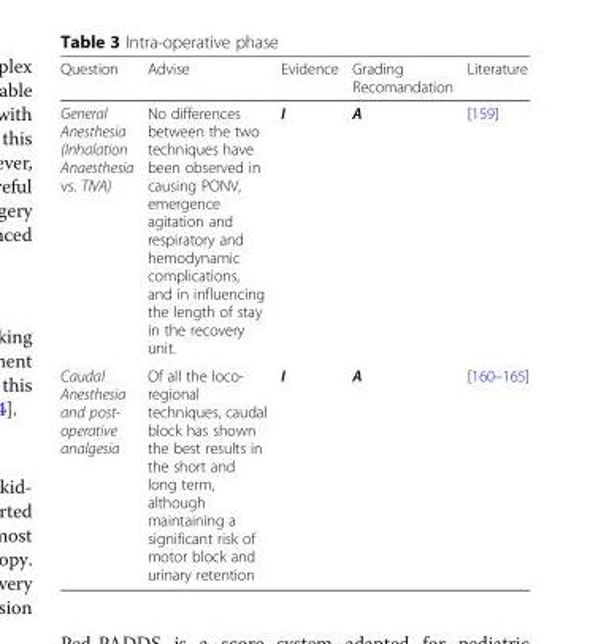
<table><thead><tr><td>Question</td><td>Advise</td><td>Evidence</td><td>Grading Recomandation</td><td>Literature</td></tr></thead><tbody><tr><td>General Anesthesia (Inhalation Anaesthesia vs. TIVA)</td><td>No differences between the two techniques have been observed in causing PONV, emergence agitation and respiratory and hemodynamic complications, and in influencing the length of stay in the recovery unit.</td><td>I</td><td>A</td><td>[159]</td></tr><tr><td>Caudal Anesthesia and post- operative analgesia</td><td>Of all the loco- regional techniques, caudal block has shown the best results in the short and long term, although maintaining a significant risk of motor block and urinary retention</td><td>I</td><td>A</td><td>[160–165]</td></tr></tbody></table>